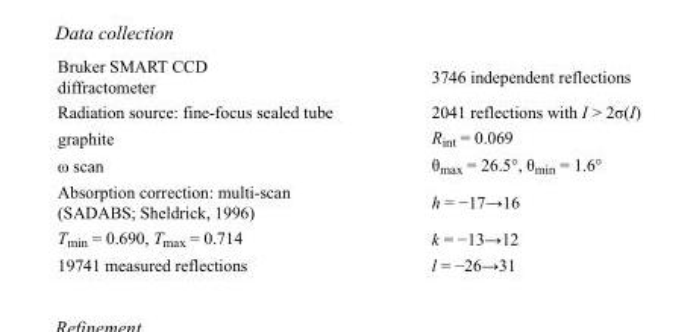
<table><tbody><tr><td>Bruker SMART CCD diffractometer</td><td>3746 independent reflections</td></tr><tr><td>Radiation source: fine-focus sealed tube</td><td>2041 reflections with I &gt; 2σ(I)</td></tr><tr><td>graphite</td><td>R<sub>int</sub> = 0.069</td></tr><tr><td>ω scan</td><td>θ<sub>max</sub> = 26.5°, θ<sub>min</sub> = 1.6°</td></tr><tr><td>Absorption correction: multi-scan (SADABS; Sheldrick, 1996)</td><td>h = −17→16</td></tr><tr><td>T<sub>min</sub> = 0.690, T<sub>max</sub> = 0.714</td><td>k = −13→12</td></tr><tr><td>19741 measured reflections</td><td>l = −26→31</td></tr></tbody></table>